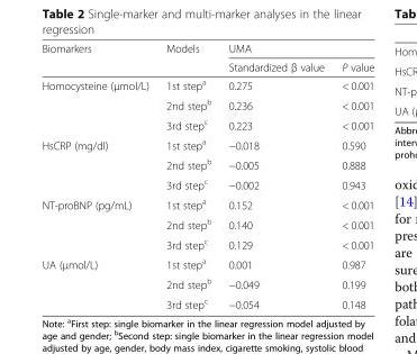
<table><thead><tr><td rowspan="2">Biomarkers</td><td rowspan="2">Models</td><td colspan="2">UMA</td></tr><tr><td>Standardized β value</td><td>P value</td></tr></thead><tbody><tr><td rowspan="3">Homocysteine (μmol/L)</td><td>1st step<sup>a</sup></td><td>0.275</td><td>&lt; 0.001</td></tr><tr><td>2nd step<sup>b</sup></td><td>0.236</td><td>&lt; 0.001</td></tr><tr><td>3rd step<sup>c</sup></td><td>0.223</td><td>&lt; 0.001</td></tr><tr><td rowspan="3">HsCRP (mg/dl)</td><td>1st step<sup>a</sup></td><td>−0.018</td><td>0.590</td></tr><tr><td>2nd step<sup>b</sup></td><td>−0.005</td><td>0.888</td></tr><tr><td>3rd step<sup>c</sup></td><td>−0.002</td><td>0.943</td></tr><tr><td rowspan="3">NT-proBNP (pg/mL)</td><td>1st step<sup>a</sup></td><td>0.152</td><td>&lt; 0.001</td></tr><tr><td>2nd step<sup>b</sup></td><td>0.140</td><td>&lt; 0.001</td></tr><tr><td>3rd step<sup>c</sup></td><td>0.129</td><td>&lt; 0.001</td></tr><tr><td rowspan="3">UA (μmol/L)</td><td>1st step<sup>a</sup></td><td>0.001</td><td>0.987</td></tr><tr><td>2nd step<sup>b</sup></td><td>−0.049</td><td>0.199</td></tr><tr><td>3rd step<sup>c</sup></td><td>−0.054</td><td>0.148</td></tr></tbody></table>